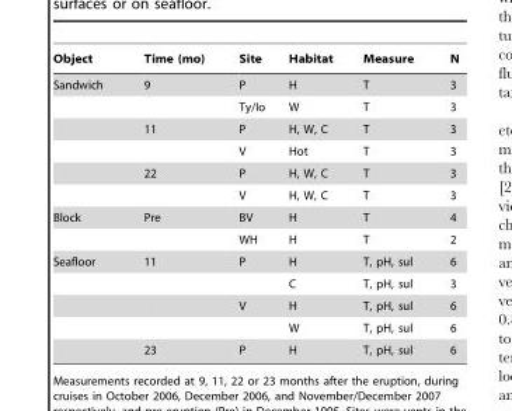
<table><thead><tr><td>Object</td><td>Time (mo)</td><td>Site</td><td>Habitat</td><td>Measure</td><td>N</td></tr></thead><tbody><tr><td rowspan="6">Sandwich</td><td>9</td><td>P</td><td>H</td><td>T</td><td>3</td></tr><tr><td></td><td>Ty/Io</td><td>W</td><td>T</td><td>3</td></tr><tr><td>11</td><td>P</td><td>H, W, C</td><td>T</td><td>3</td></tr><tr><td></td><td>V</td><td>Hot</td><td>T</td><td>3</td></tr><tr><td>22</td><td>P</td><td>H, W, C</td><td>T</td><td>3</td></tr><tr><td></td><td>V</td><td>H, W, C</td><td>T</td><td>3</td></tr><tr><td rowspan="2">Block</td><td>Pre</td><td>BV</td><td>H</td><td>T</td><td>4</td></tr><tr><td></td><td>WH</td><td>H</td><td>T</td><td>2</td></tr><tr><td rowspan="5">Seafloor</td><td>11</td><td>P</td><td>H</td><td>T, pH, sul</td><td>6</td></tr><tr><td></td><td></td><td>C</td><td>T, pH, sul</td><td>3</td></tr><tr><td></td><td>V</td><td>H</td><td>T, pH, sul</td><td>6</td></tr><tr><td></td><td></td><td>W</td><td>T, pH, sul</td><td>6</td></tr><tr><td>23</td><td>P</td><td>H</td><td>T, pH, sul</td><td>6</td></tr></tbody></table>